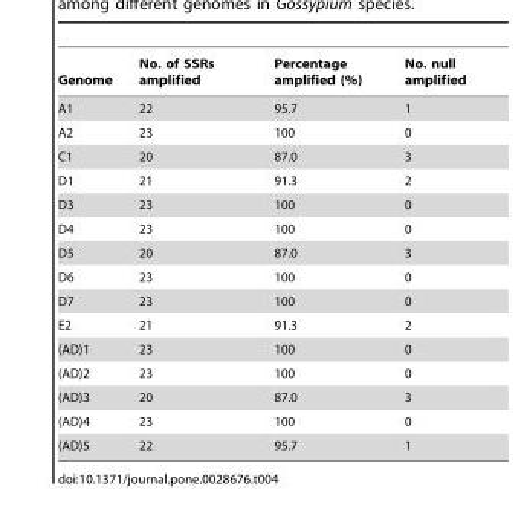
<table><thead><tr><td>Genome</td><td>No. of SSRs amplified</td><td>Percentage amplified (%)</td><td>No. null amplified</td></tr></thead><tbody><tr><td>A1</td><td>22</td><td>95.7</td><td>1</td></tr><tr><td>A2</td><td>23</td><td>100</td><td>0</td></tr><tr><td>C1</td><td>20</td><td>87.0</td><td>3</td></tr><tr><td>D1</td><td>21</td><td>91.3</td><td>2</td></tr><tr><td>D3</td><td>23</td><td>100</td><td>0</td></tr><tr><td>D4</td><td>23</td><td>100</td><td>0</td></tr><tr><td>D5</td><td>20</td><td>87.0</td><td>3</td></tr><tr><td>D6</td><td>23</td><td>100</td><td>0</td></tr><tr><td>D7</td><td>23</td><td>100</td><td>0</td></tr><tr><td>E2</td><td>21</td><td>91.3</td><td>2</td></tr><tr><td>(AD)1</td><td>23</td><td>100</td><td>0</td></tr><tr><td>(AD)2</td><td>23</td><td>100</td><td>0</td></tr><tr><td>(AD)3</td><td>20</td><td>87.0</td><td>3</td></tr><tr><td>(AD)4</td><td>23</td><td>100</td><td>0</td></tr><tr><td>(AD)5</td><td>22</td><td>95.7</td><td>1</td></tr></tbody></table>